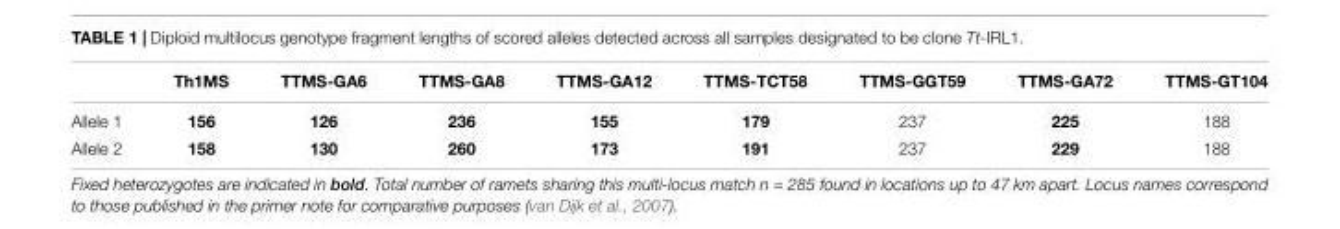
<table><thead><tr><td></td><td>Th1MS</td><td>TTMS-GA6</td><td>TTMS-GA8</td><td>TTMS-GA12</td><td>TTMS-TCT58</td><td>TTMS-GGT59</td><td>TTMS-GA72</td><td>TTMS-GT104</td></tr></thead><tbody><tr><td>Allele 1</td><td>156</td><td>126</td><td>236</td><td>155</td><td>179</td><td>237</td><td>225</td><td>188</td></tr><tr><td>Allele 2</td><td>158</td><td>130</td><td>260</td><td>173</td><td>191</td><td>237</td><td>229</td><td>188</td></tr></tbody></table>